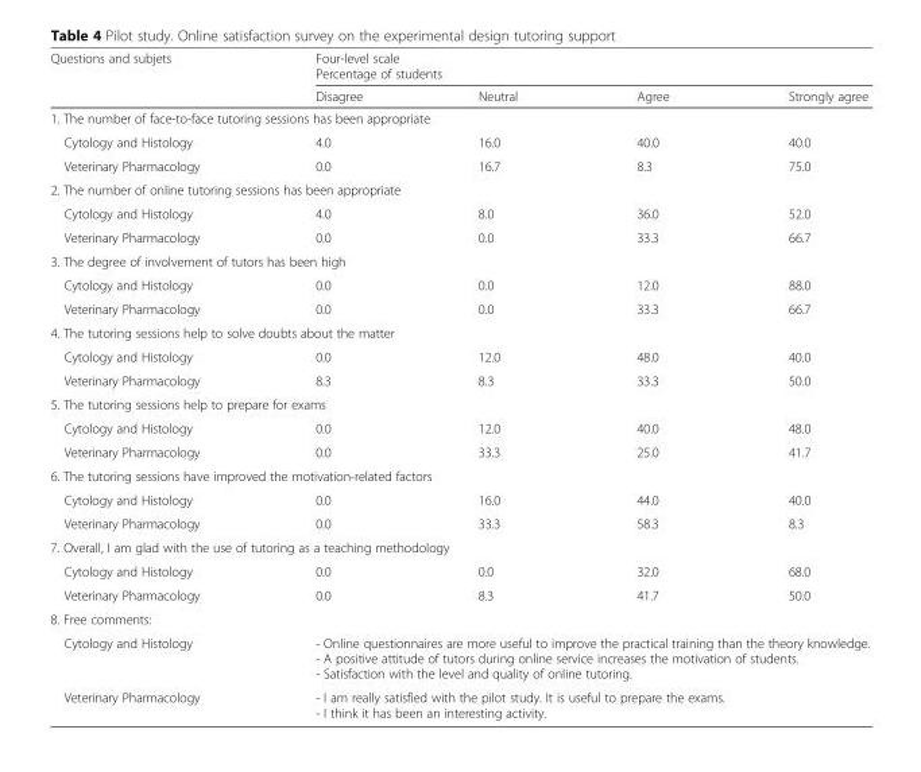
<table><thead><tr><td rowspan="2">Questions and subjets</td><td colspan="4">Four-level scale Percentage of students</td></tr><tr><td>Disagree</td><td>Neutral</td><td>Agree</td><td>Strongly agree</td></tr></thead><tbody><tr><td colspan="5">1. The number of face-to-face tutoring sessions has been appropriate</td></tr><tr><td>Cytology and Histology</td><td>4.0</td><td>16.0</td><td>40.0</td><td>40.0</td></tr><tr><td>Veterinary Pharmacology</td><td>0.0</td><td>16.7</td><td>8.3</td><td>75.0</td></tr><tr><td colspan="5">2. The number of online tutoring sessions has been appropriate</td></tr><tr><td>Cytology and Histology</td><td>4.0</td><td>8.0</td><td>36.0</td><td>52.0</td></tr><tr><td>Veterinary Pharmacology</td><td>0.0</td><td>0.0</td><td>33.3</td><td>66.7</td></tr><tr><td colspan="5">3. The degree of involvement of tutors has been high</td></tr><tr><td>Cytology and Histology</td><td>0.0</td><td>0.0</td><td>12.0</td><td>88.0</td></tr><tr><td>Veterinary Pharmacology</td><td>0.0</td><td>0.0</td><td>33.3</td><td>66.7</td></tr><tr><td colspan="5">4. The tutoring sessions help to solve doubts about the matter</td></tr><tr><td>Cytology and Histology</td><td>0.0</td><td>12.0</td><td>48.0</td><td>40.0</td></tr><tr><td>Veterinary Pharmacology</td><td>8.3</td><td>8.3</td><td>33.3</td><td>50.0</td></tr><tr><td colspan="5">5. The tutoring sessions help to prepare for exams</td></tr><tr><td>Cytology and Histology</td><td>0.0</td><td>12.0</td><td>40.0</td><td>48.0</td></tr><tr><td>Veterinary Pharmacology</td><td>0.0</td><td>33.3</td><td>25.0</td><td>41.7</td></tr><tr><td colspan="5">6. The tutoring sessions have improved the motivation-related factors</td></tr><tr><td>Cytology and Histology</td><td>0.0</td><td>16.0</td><td>44.0</td><td>40.0</td></tr><tr><td>Veterinary Pharmacology</td><td>0.0</td><td>33.3</td><td>58.3</td><td>8.3</td></tr><tr><td colspan="5">7. Overall, I am glad with the use of tutoring as a teaching methodology</td></tr><tr><td>Cytology and Histology</td><td>0.0</td><td>0.0</td><td>32.0</td><td>68.0</td></tr><tr><td>Veterinary Pharmacology</td><td>0.0</td><td>8.3</td><td>41.7</td><td>50.0</td></tr><tr><td colspan="5">8. Free comments:</td></tr><tr><td>Cytology and Histology</td><td colspan="4">- Online questionnaires are more useful to improve the practical training than the theory knowledge. - A positive attitude of tutors during online service increases the motivation of students. - Satisfaction with the level and quality of online tutoring.</td></tr><tr><td>Veterinary Pharmacology</td><td colspan="4">- I am really satisfied with the pilot study. It is useful to prepare the exams. - I think it has been an interesting activity.</td></tr></tbody></table>